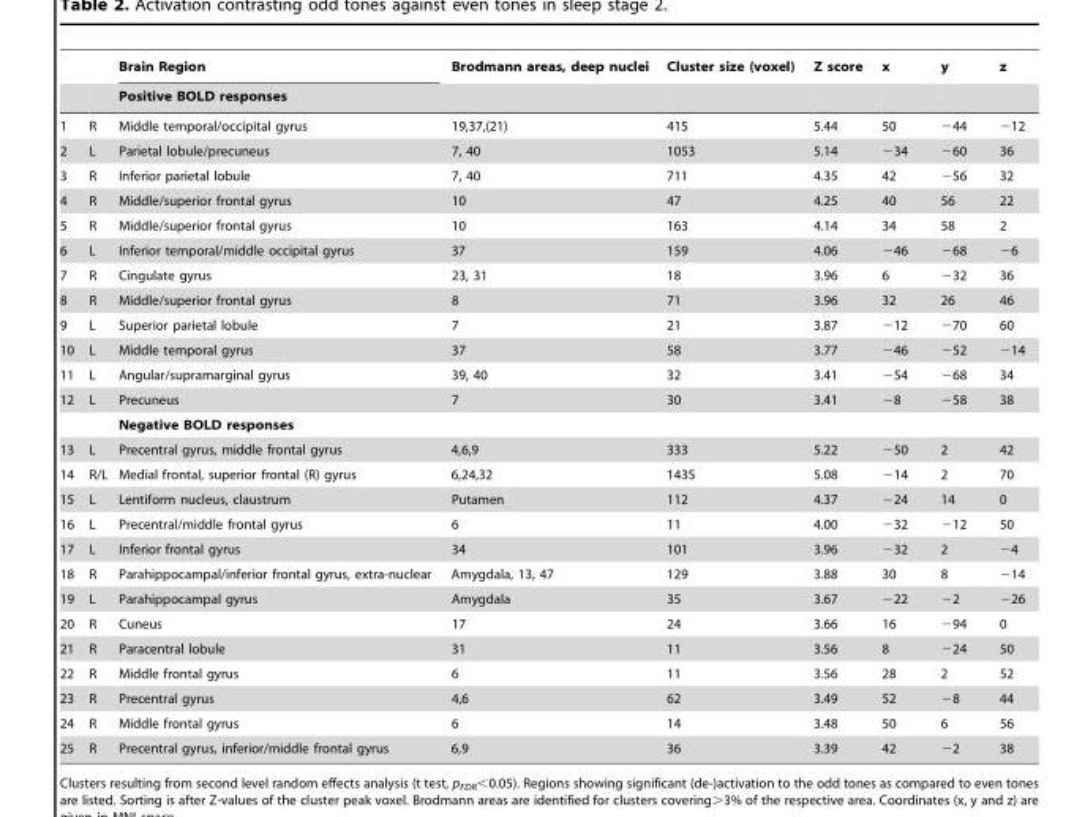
<table><thead><tr><td rowspan="2"></td><td rowspan="2"></td><td rowspan="2">Brain Region Positive BOLD responses</td><td rowspan="2">Brodmann areas, deep nuclei</td><td rowspan="2">Cluster size (voxel)</td><td rowspan="2">Z score</td><td rowspan="2">x</td><td rowspan="2">y</td><td rowspan="2">z</td></tr><tr></tr></thead><tbody><tr><td>1</td><td>R</td><td>Middle temporal/occipital gyrus</td><td>19,37,(21)</td><td>415</td><td>5.44</td><td>50</td><td>−44</td><td>−12</td></tr><tr><td>2</td><td>L</td><td>Parietal lobule/precuneus</td><td>7, 40</td><td>1053</td><td>5.14</td><td>−34</td><td>−60</td><td>36</td></tr><tr><td>3</td><td>R</td><td>Inferior parietal lobule</td><td>7, 40</td><td>711</td><td>4.35</td><td>42</td><td>−56</td><td>32</td></tr><tr><td>4</td><td>R</td><td>Middle/superior frontal gyrus</td><td>10</td><td>47</td><td>4.25</td><td>40</td><td>56</td><td>22</td></tr><tr><td>5</td><td>R</td><td>Middle/superior frontal gyrus</td><td>10</td><td>163</td><td>4.14</td><td>34</td><td>58</td><td>2</td></tr><tr><td>6</td><td>L</td><td>Inferior temporal/middle occipital gyrus</td><td>37</td><td>159</td><td>4.06</td><td>−46</td><td>−68</td><td>−6</td></tr><tr><td>7</td><td>R</td><td>Cingulate gyrus</td><td>23, 31</td><td>18</td><td>3.96</td><td>6</td><td>−32</td><td>36</td></tr><tr><td>8</td><td>R</td><td>Middle/superior frontal gyrus</td><td>8</td><td>71</td><td>3.96</td><td>32</td><td>26</td><td>46</td></tr><tr><td>9</td><td>L</td><td>Superior parietal lobule</td><td>7</td><td>21</td><td>3.87</td><td>−12</td><td>−70</td><td>60</td></tr><tr><td>10</td><td>L</td><td>Middle temporal gyrus</td><td>37</td><td>58</td><td>3.77</td><td>−46</td><td>−52</td><td>−14</td></tr><tr><td>11</td><td>L</td><td>Angular/supramarginal gyrus</td><td>39, 40</td><td>32</td><td>3.41</td><td>−54</td><td>−68</td><td>34</td></tr><tr><td rowspan="2">12</td><td>L</td><td>Precuneus</td><td>7</td><td>30</td><td>3.41</td><td>−8</td><td>−58</td><td>38</td></tr><tr><td></td><td>Negative BOLD responses</td><td></td><td></td><td></td><td></td><td></td><td></td></tr><tr><td>13</td><td>L</td><td>Precentral gyrus, middle frontal gyrus</td><td>4,6,9</td><td>333</td><td>5.22</td><td>−50</td><td>2</td><td>42</td></tr><tr><td>14</td><td>R/L</td><td>Medial frontal, superior frontal (R) gyrus</td><td>6,24,32</td><td>1435</td><td>5.08</td><td>−14</td><td>2</td><td>70</td></tr><tr><td>15</td><td>L</td><td>Lentiform nucleus, claustrum</td><td>Putamen</td><td>112</td><td>4.37</td><td>−24</td><td>14</td><td>0</td></tr><tr><td>16</td><td>L</td><td>Precentral/middle frontal gyrus</td><td>6</td><td>11</td><td>4.00</td><td>−32</td><td>−12</td><td>50</td></tr><tr><td>17</td><td>L</td><td>Inferior frontal gyrus</td><td>34</td><td>101</td><td>3.96</td><td>−32</td><td>2</td><td>−4</td></tr><tr><td>18</td><td>R</td><td>Parahippocampal/inferior frontal gyrus, extra-nuclear</td><td>Amygdala, 13, 47</td><td>129</td><td>3.88</td><td>30</td><td>8</td><td>−14</td></tr><tr><td>19</td><td>L</td><td>Parahippocampal gyrus</td><td>Amygdala</td><td>35</td><td>3.67</td><td>−22</td><td>−2</td><td>−26</td></tr><tr><td>20</td><td>R</td><td>Cuneus</td><td>17</td><td>24</td><td>3.66</td><td>16</td><td>−94</td><td>0</td></tr><tr><td>21</td><td>R</td><td>Paracentral lobule</td><td>31</td><td>11</td><td>3.56</td><td>8</td><td>−24</td><td>50</td></tr><tr><td>22</td><td>R</td><td>Middle frontal gyrus</td><td>6</td><td>11</td><td>3.56</td><td>28</td><td>2</td><td>52</td></tr><tr><td>23</td><td>R</td><td>Precentral gyrus</td><td>4,6</td><td>62</td><td>3.49</td><td>52</td><td>−8</td><td>44</td></tr><tr><td>24</td><td>R</td><td>Middle frontal gyrus</td><td>6</td><td>14</td><td>3.48</td><td>50</td><td>6</td><td>56</td></tr><tr><td>25</td><td>R</td><td>Precentral gyrus, inferior/middle frontal gyrus</td><td>6,9</td><td>36</td><td>3.39</td><td>42</td><td>−2</td><td>38</td></tr></tbody></table>